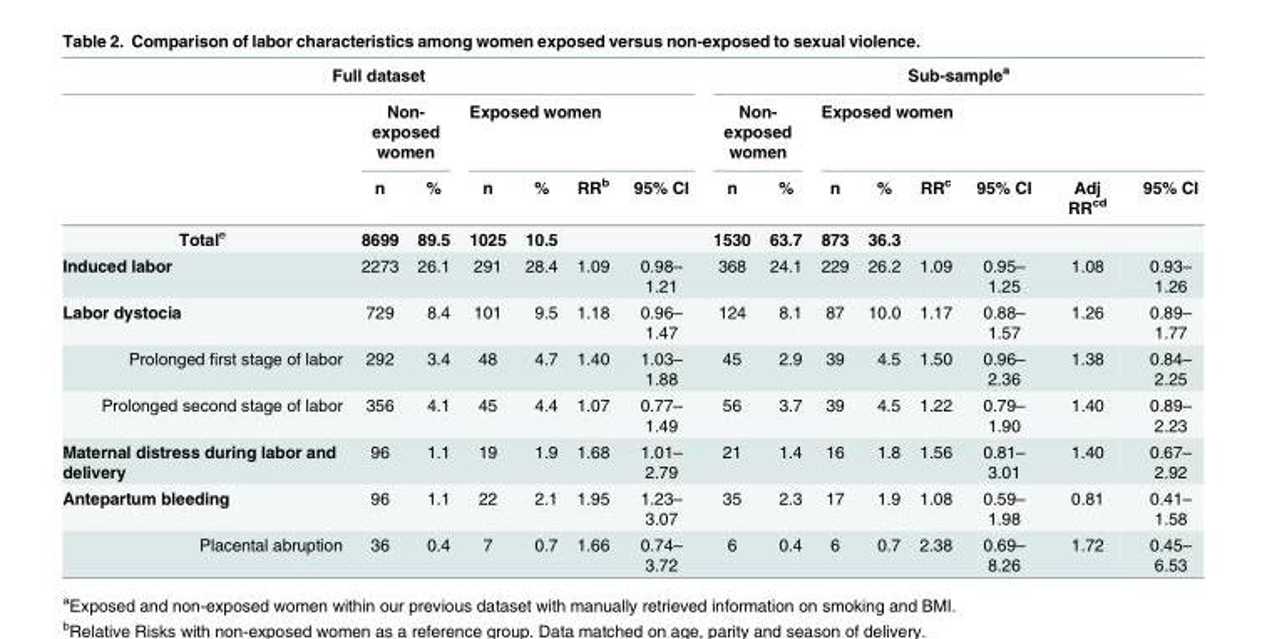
<table><thead><tr><td colspan="7">Full dataset</td><td colspan="8">Sub-sample<sup>a</sup></td></tr><tr><td rowspan="2"></td><td colspan="2">Non- exposed women</td><td colspan="4">Exposed women</td><td colspan="2">Non- exposed women</td><td colspan="6">Exposed women</td></tr><tr><td>n</td><td>%</td><td>n</td><td>%</td><td>RR<sup>b</sup></td><td>95% CI</td><td>n</td><td>%</td><td>n</td><td>%</td><td>RR<sup>c</sup></td><td>95% CI</td><td>Adj RR<sup>cd</sup></td><td>95% CI</td></tr></thead><tbody><tr><td>Total<sup>e</sup></td><td>8699</td><td>89.5</td><td>1025</td><td>10.5</td><td></td><td></td><td>1530</td><td>63.7</td><td>873</td><td>36.3</td><td></td><td></td><td></td><td></td></tr><tr><td>Induced labor</td><td>2273</td><td>26.1</td><td>291</td><td>28.4</td><td>1.09</td><td>0.98– 1.21</td><td>368</td><td>24.1</td><td>229</td><td>26.2</td><td>1.09</td><td>0.95– 1.25</td><td>1.08</td><td>0.93– 1.26</td></tr><tr><td>Labor dystocia</td><td>729</td><td>8.4</td><td>101</td><td>9.5</td><td>1.18</td><td>0.96– 1.47</td><td>124</td><td>8.1</td><td>87</td><td>10.0</td><td>1.17</td><td>0.88– 1.57</td><td>1.26</td><td>0.89– 1.77</td></tr><tr><td>Prolonged first stage of labor</td><td>292</td><td>3.4</td><td>48</td><td>4.7</td><td>1.40</td><td>1.03– 1.88</td><td>45</td><td>2.9</td><td>39</td><td>4.5</td><td>1.50</td><td>0.96– 2.36</td><td>1.38</td><td>0.84– 2.25</td></tr><tr><td>Prolonged second stage of labor</td><td>356</td><td>4.1</td><td>45</td><td>4.4</td><td>1.07</td><td>0.77– 1.49</td><td>56</td><td>3.7</td><td>39</td><td>4.5</td><td>1.22</td><td>0.79– 1.90</td><td>1.40</td><td>0.89– 2.23</td></tr><tr><td>Maternal distress during labor and delivery</td><td>96</td><td>1.1</td><td>19</td><td>1.9</td><td>1.68</td><td>1.01– 2.79</td><td>21</td><td>1.4</td><td>16</td><td>1.8</td><td>1.56</td><td>0.81– 3.01</td><td>1.40</td><td>0.67– 2.92</td></tr><tr><td>Antepartum bleeding</td><td>96</td><td>1.1</td><td>22</td><td>2.1</td><td>1.95</td><td>1.23– 3.07</td><td>35</td><td>2.3</td><td>17</td><td>1.9</td><td>1.08</td><td>0.59– 1.98</td><td>0.81</td><td>0.41– 1.58</td></tr><tr><td>Placental abruption</td><td>36</td><td>0.4</td><td>7</td><td>0.7</td><td>1.66</td><td>0.74– 3.72</td><td>6</td><td>0.4</td><td>6</td><td>0.7</td><td>2.38</td><td>0.69– 8.26</td><td>1.72</td><td>0.45– 6.53</td></tr></tbody></table>